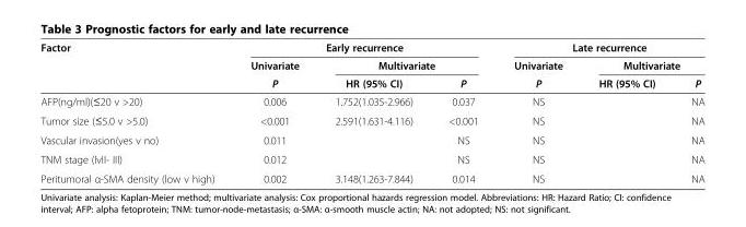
<table><thead><tr><td rowspan="3">Factor</td><td colspan="3">Early recurrence</td><td colspan="3">Late recurrence</td></tr><tr><td rowspan="2">Univariate P</td><td colspan="2">Multivariate</td><td rowspan="2">Univariate P</td><td colspan="2">Multivariate</td></tr><tr><td>HR (95% CI)</td><td>P</td><td>HR (95% CI)</td><td>P</td></tr></thead><tbody><tr><td>AFP(ng/ml)(≤20 v &gt;20)</td><td>0.006</td><td>1.752(1.035-2.966)</td><td>0.037</td><td>NS</td><td></td><td>NA</td></tr><tr><td>Tumor size (≤5.0 v &gt;5.0)</td><td>&lt;0.001</td><td>2.591(1.631-4.116)</td><td>&lt;0.001</td><td>NS</td><td></td><td>NA</td></tr><tr><td>Vascular invasion(yes v no)</td><td>0.011</td><td></td><td>NS</td><td>NS</td><td></td><td>NA</td></tr><tr><td>TNM stage (IvII- III)</td><td>0.012</td><td></td><td>NS</td><td>NS</td><td></td><td>NA</td></tr><tr><td>Peritumoral α-SMA density (low v high)</td><td>0.002</td><td>3.148(1.263-7.844)</td><td>0.014</td><td>NS</td><td></td><td>NA</td></tr></tbody></table>